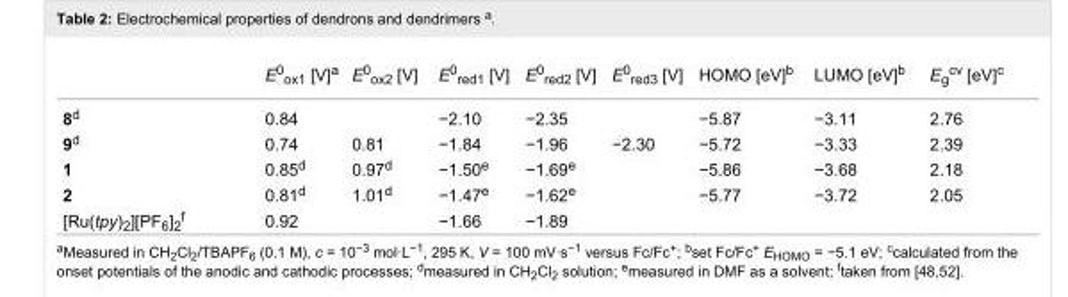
<table><thead><tr><td></td><td>E<sup>0</sup><sub>ox1</sub> [V]<sup>a</sup></td><td>E<sup>0</sup><sub>ox2</sub> [V]</td><td>E<sup>0</sup><sub>red1</sub> [V]</td><td>E<sup>0</sup><sub>red2</sub> [V]</td><td>E<sup>0</sup><sub>red3</sub> [V]</td><td>HOMO [eV]<sup>b</sup></td><td>LUMO [eV]<sup>b</sup></td><td>E<sub>g</sub><sup>cv</sup> [eV]<sup>c</sup></td></tr></thead><tbody><tr><td>8<sup>d</sup></td><td>0.84</td><td></td><td>−2.10</td><td>−2.35</td><td></td><td>−5.87</td><td>−3.11</td><td>2.76</td></tr><tr><td>9<sup>d</sup></td><td>0.74</td><td>0.81</td><td>−1.84</td><td>−1.96</td><td>−2.30</td><td>−5.72</td><td>−3.33</td><td>2.39</td></tr><tr><td>1</td><td>0.85<sup>d</sup></td><td>0.97<sup>d</sup></td><td>−1.50<sup>e</sup></td><td>−1.69<sup>e</sup></td><td></td><td>−5.86</td><td>−3.68</td><td>2.18</td></tr><tr><td>2</td><td>0.81<sup>d</sup></td><td>1.01<sup>d</sup></td><td>−1.47<sup>e</sup></td><td>−1.62<sup>e</sup></td><td></td><td>−5.77</td><td>−3.72</td><td>2.05</td></tr><tr><td>[Ru(tpy)<sub>2</sub>][PF<sub>6</sub>]<sub>2</sub><sup>f</sup></td><td>0.92</td><td></td><td>−1.66</td><td>−1.89</td><td></td><td></td><td></td><td></td></tr></tbody></table>